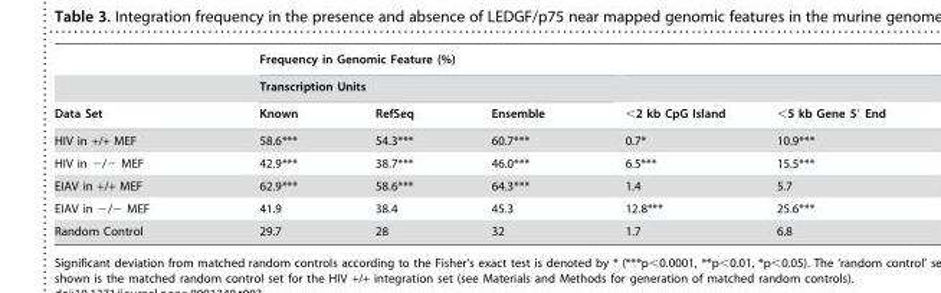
<table><thead><tr><td rowspan="3">Data Set</td><td colspan="5">Frequency in Genomic Feature (%)</td></tr><tr><td colspan="3">Transcription Units</td><td rowspan="2">&lt;2 kb CpG Island</td><td rowspan="2">&lt;5 kb Gene 5′ End</td></tr><tr><td>Known</td><td>RefSeq</td><td>Ensemble</td></tr></thead><tbody><tr><td>HIV in +/+ MEF</td><td>58.6***</td><td>54.3***</td><td>60.7***</td><td>0.7*</td><td>10.9***</td></tr><tr><td>HIV in −/− MEF</td><td>42.9***</td><td>38.7***</td><td>46.0***</td><td>6.5***</td><td>15.5***</td></tr><tr><td>EIAV in +/+ MEF</td><td>62.9***</td><td>58.6***</td><td>64.3***</td><td>1.4</td><td>5.7</td></tr><tr><td>EIAV in −/− MEF</td><td>41.9</td><td>38.4</td><td>45.3</td><td>12.8***</td><td>25.6***</td></tr><tr><td>Random Control</td><td>29.7</td><td>28</td><td>32</td><td>1.7</td><td>6.8</td></tr></tbody></table>